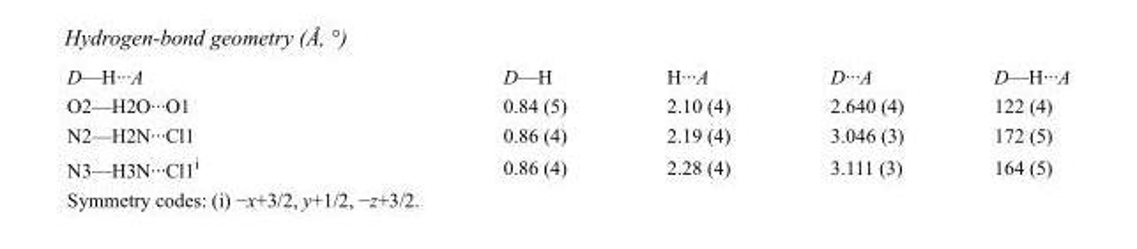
<table><tbody><tr><td>D—H···A</td><td>D—H</td><td>H···A</td><td>D···A</td><td>D—H···A</td></tr><tr><td>O2—H2O···O1</td><td>0.84 (5)</td><td>2.10 (4)</td><td>2.640 (4)</td><td>122 (4)</td></tr><tr><td>N2—H2N···Cl1</td><td>0.86 (4)</td><td>2.19 (4)</td><td>3.046 (3)</td><td>172 (5)</td></tr><tr><td>N3—H3N···Cl1<sup>i</sup></td><td>0.86 (4)</td><td>2.28 (4)</td><td>3.111 (3)</td><td>164 (5)</td></tr></tbody></table>